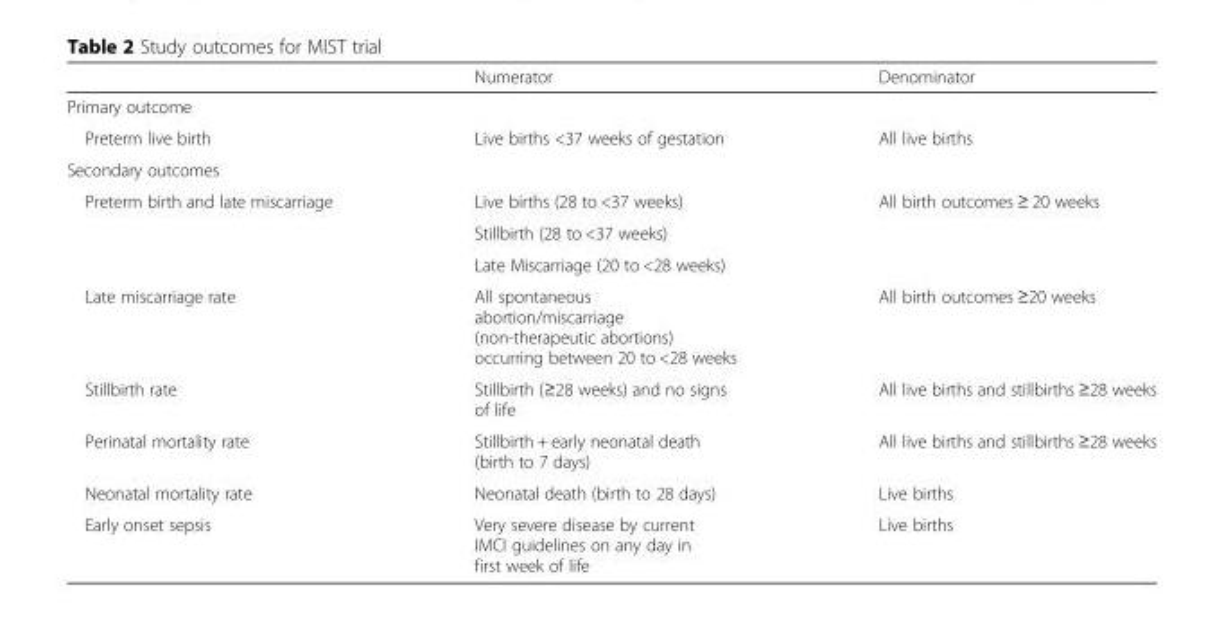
<table><thead><tr><td></td><td>Numerator</td><td>Denominator</td></tr></thead><tbody><tr><td colspan="3">Primary outcome</td></tr><tr><td>Preterm live birth</td><td>Live births &lt;37 weeks of gestation</td><td>All live births</td></tr><tr><td colspan="3">Secondary outcomes</td></tr><tr><td rowspan="3">Preterm birth and late miscarriage</td><td>Live births (28 to &lt;37 weeks)</td><td rowspan="3">All birth outcomes ≥ 20 weeks</td></tr><tr><td>Stillbirth (28 to &lt;37 weeks)</td></tr><tr><td>Late Miscarriage (20 to &lt;28 weeks)</td></tr><tr><td>Late miscarriage rate</td><td>All spontaneous abortion/miscarriage (non-therapeutic abortions) occurring between 20 to &lt;28 weeks</td><td>All birth outcomes ≥20 weeks</td></tr><tr><td>Stillbirth rate</td><td>Stillbirth (≥28 weeks) and no signs of life</td><td>All live births and stillbirths ≥28 weeks</td></tr><tr><td>Perinatal mortality rate</td><td>Stillbirth + early neonatal death (birth to 7 days)</td><td>All live births and stillbirths ≥28 weeks</td></tr><tr><td>Neonatal mortality rate</td><td>Neonatal death (birth to 28 days)</td><td>Live births</td></tr><tr><td>Early onset sepsis</td><td>Very severe disease by current IMCI guidelines on any day in first week of life</td><td>Live births</td></tr></tbody></table>